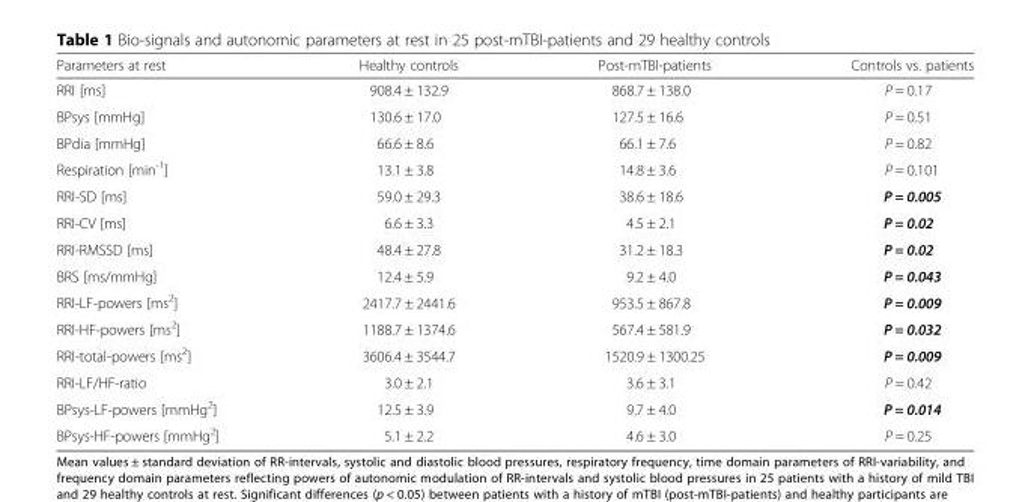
<table><thead><tr><td>Parameters at rest</td><td>Healthy controls</td><td>Post-mTBI-patients</td><td>Controls vs. patients</td></tr></thead><tbody><tr><td>RRI [ms]</td><td>908.4 ± 132.9</td><td>868.7 ± 138.0</td><td>P = 0.17</td></tr><tr><td>BPsys [mmHg]</td><td>130.6 ± 17.0</td><td>127.5 ± 16.6</td><td>P = 0.51</td></tr><tr><td>BPdia [mmHg]</td><td>66.6 ± 8.6</td><td>66.1 ± 7.6</td><td>P = 0.82</td></tr><tr><td>Respiration [min<sup>-1</sup>]</td><td>13.1 ± 3.8</td><td>14.8 ± 3.6</td><td>P = 0.101</td></tr><tr><td>RRI-SD [ms]</td><td>59.0 ± 29.3</td><td>38.6 ± 18.6</td><td>P = 0.005</td></tr><tr><td>RRI-CV [ms]</td><td>6.6 ± 3.3</td><td>4.5 ± 2.1</td><td>P = 0.02</td></tr><tr><td>RRI-RMSSD [ms]</td><td>48.4 ± 27.8</td><td>31.2 ± 18.3</td><td>P = 0.02</td></tr><tr><td>BRS [ms/mmHg]</td><td>12.4 ± 5.9</td><td>9.2 ± 4.0</td><td>P = 0.043</td></tr><tr><td>RRI-LF-powers [ms<sup>2</sup>]</td><td>2417.7 ± 2441.6</td><td>953.5 ± 867.8</td><td>P = 0.009</td></tr><tr><td>RRI-HF-powers [ms<sup>2</sup>]</td><td>1188.7 ± 1374.6</td><td>567.4 ± 581.9</td><td>P = 0.032</td></tr><tr><td>RRI-total-powers [ms<sup>2</sup>]</td><td>3606.4 ± 3544.7</td><td>1520.9 ± 1300.25</td><td>P = 0.009</td></tr><tr><td>RRI-LF/HF-ratio</td><td>3.0 ± 2.1</td><td>3.6 ± 3.1</td><td>P = 0.42</td></tr><tr><td>BPsys-LF-powers [mmHg<sup>2</sup>]</td><td>12.5 ± 3.9</td><td>9.7 ± 4.0</td><td>P = 0.014</td></tr><tr><td>BPsys-HF-powers [mmHg<sup>2</sup>]</td><td>5.1 ± 2.2</td><td>4.6 ± 3.0</td><td>P = 0.25</td></tr></tbody></table>